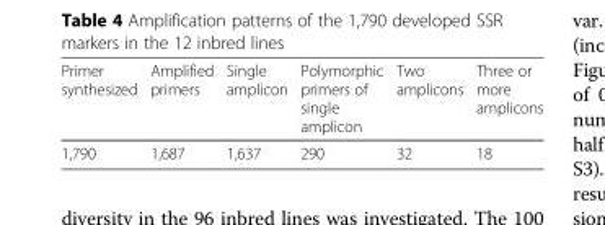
<table><thead><tr><td>Primer synthesized</td><td>Amplified primers</td><td>Single amplicon</td><td>Polymorphic primers of single amplicon</td><td>Two amplicons</td><td>Three or more amplicons</td></tr></thead><tbody><tr><td>1,790</td><td>1,687</td><td>1,637</td><td>290</td><td>32</td><td>18</td></tr></tbody></table>